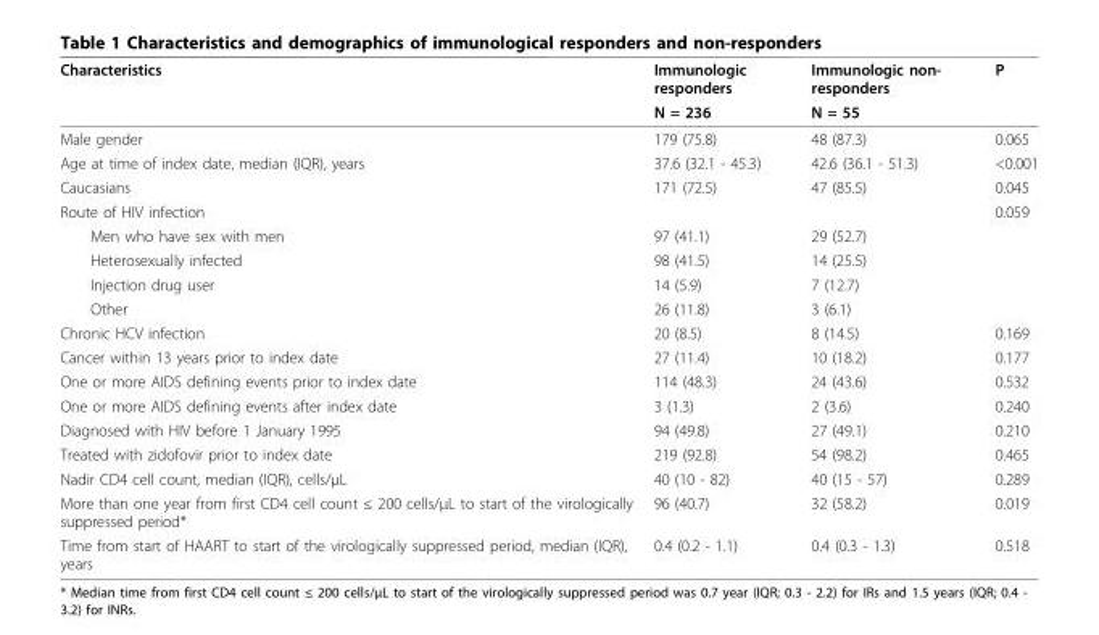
<table><thead><tr><td rowspan="2">Characteristics</td><td rowspan="2">Immunologic responders N = 236</td><td rowspan="2">Immunologic non- responders N = 55</td><td rowspan="2">P</td></tr><tr></tr></thead><tbody><tr><td>Male gender</td><td>179 (75.8)</td><td>48 (87.3)</td><td>0.065</td></tr><tr><td>Age at time of index date, median (IQR), years</td><td>37.6 (32.1 - 45.3)</td><td>42.6 (36.1 - 51.3)</td><td>&lt;0.001</td></tr><tr><td>Caucasians</td><td>171 (72.5)</td><td>47 (85.5)</td><td>0.045</td></tr><tr><td>Route of HIV infection</td><td></td><td></td><td>0.059</td></tr><tr><td>Men who have sex with men</td><td>97 (41.1)</td><td>29 (52.7)</td><td></td></tr><tr><td>Heterosexually infected</td><td>98 (41.5)</td><td>14 (25.5)</td><td></td></tr><tr><td>Injection drug user</td><td>14 (5.9)</td><td>7 (12.7)</td><td></td></tr><tr><td>Other</td><td>26 (11.8)</td><td>3 (6.1)</td><td></td></tr><tr><td>Chronic HCV infection</td><td>20 (8.5)</td><td>8 (14.5)</td><td>0.169</td></tr><tr><td>Cancer within 13 years prior to index date</td><td>27 (11.4)</td><td>10 (18.2)</td><td>0.177</td></tr><tr><td>One or more AIDS defining events prior to index date</td><td>114 (48.3)</td><td>24 (43.6)</td><td>0.532</td></tr><tr><td>One or more AIDS defining events after index date</td><td>3 (1.3)</td><td>2 (3.6)</td><td>0.240</td></tr><tr><td>Diagnosed with HIV before 1 January 1995</td><td>94 (49.8)</td><td>27 (49.1)</td><td>0.210</td></tr><tr><td>Treated with zidofovir prior to index date</td><td>219 (92.8)</td><td>54 (98.2)</td><td>0.465</td></tr><tr><td>Nadir CD4 cell count, median (IQR), cells/μL</td><td>40 (10 - 82)</td><td>40 (15 - 57)</td><td>0.289</td></tr><tr><td>More than one year from first CD4 cell count ≤ 200 cells/μL to start of the virologically suppressed period*</td><td>96 (40.7)</td><td>32 (58.2)</td><td>0.019</td></tr><tr><td>Time from start of HAART to start of the virologically suppressed period, median (IQR), years</td><td>0.4 (0.2 - 1.1)</td><td>0.4 (0.3 - 1.3)</td><td>0.518</td></tr></tbody></table>